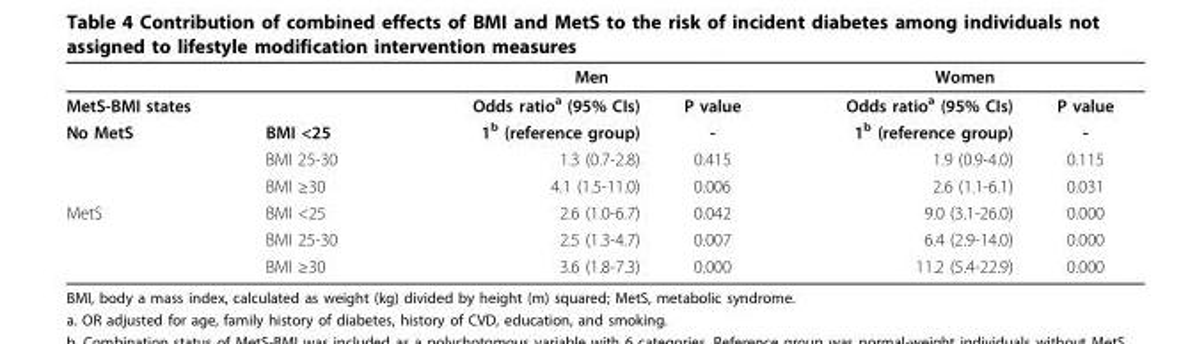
<table><thead><tr><td rowspan="2">MetS-BMI states</td><td rowspan="2"></td><td colspan="2">Men</td><td colspan="2">Women</td></tr><tr><td>Odds ratio<sup>a</sup> (95% CIs)</td><td>P value</td><td>Odds ratio<sup>a</sup> (95% CIs)</td><td>P value</td></tr></thead><tbody><tr><td rowspan="3">No MetS</td><td>BMI &lt;25</td><td>1<sup>b</sup> (reference group)</td><td>-</td><td>1<sup>b</sup> (reference group)</td><td>-</td></tr><tr><td>BMI 25-30</td><td>1.3 (0.7-2.8)</td><td>0.415</td><td>1.9 (0.9-4.0)</td><td>0.115</td></tr><tr><td>BMI ≥30</td><td>4.1 (1.5-11.0)</td><td>0.006</td><td>2.6 (1.1-6.1)</td><td>0.031</td></tr><tr><td rowspan="3">MetS</td><td>BMI &lt;25</td><td>2.6 (1.0-6.7)</td><td>0.042</td><td>9.0 (3.1-26.0)</td><td>0.000</td></tr><tr><td>BMI 25-30</td><td>2.5 (1.3-4.7)</td><td>0.007</td><td>6.4 (2.9-14.0)</td><td>0.000</td></tr><tr><td>BMI ≥30</td><td>3.6 (1.8-7.3)</td><td>0.000</td><td>11.2 (5.4-22.9)</td><td>0.000</td></tr></tbody></table>